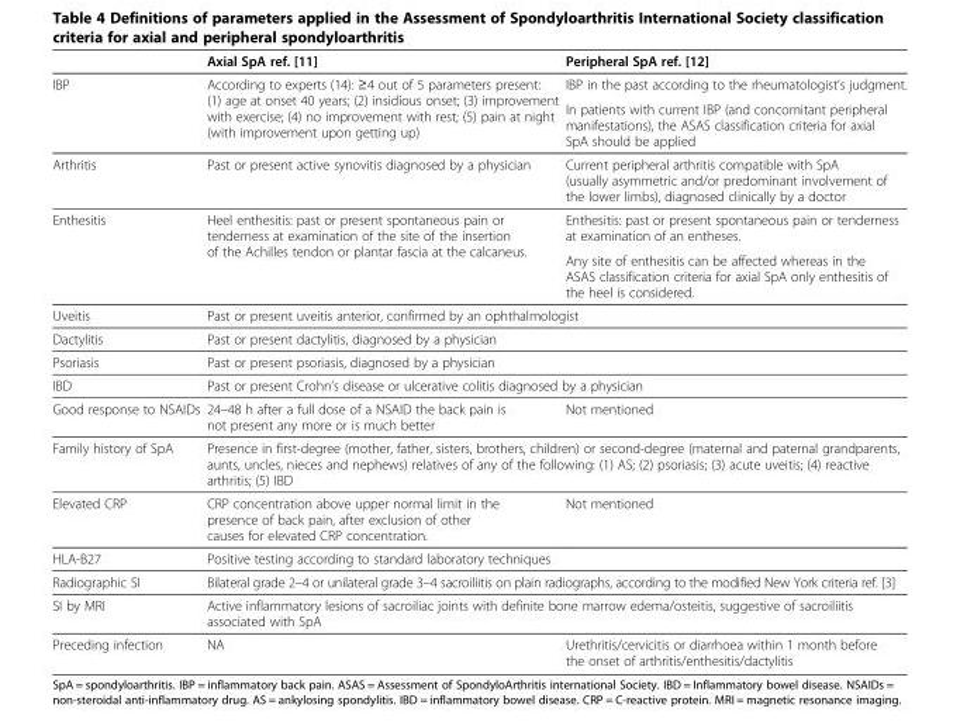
<table><thead><tr><td></td><td>Axial SpA ref. [11]</td><td>Peripheral SpA ref. [12]</td></tr></thead><tbody><tr><td rowspan="2">IBP</td><td rowspan="2">According to experts (14): ≥4 out of 5 parameters present: (1) age at onset 40 years; (2) insidious onset; (3) improvement with exercise; (4) no improvement with rest; (5) pain at night (with improvement upon getting up)</td><td>IBP in the past according to the rheumatologist’s judgment.</td></tr><tr><td>In patients with current IBP (and concomitant peripheral manifestations), the ASAS classification criteria for axial SpA should be applied</td></tr><tr><td>Arthritis</td><td>Past or present active synovitis diagnosed by a physician</td><td>Current peripheral arthritis compatible with SpA (usually asymmetric and/or predominant involvement of the lower limbs), diagnosed clinically by a doctor</td></tr><tr><td rowspan="2">Enthesitis</td><td rowspan="2">Heel enthesitis: past or present spontaneous pain or tenderness at examination of the site of the insertion of the Achilles tendon or plantar fascia at the calcaneus.</td><td>Enthesitis: past or present spontaneous pain or tenderness at examination of an entheses.</td></tr><tr><td>Any site of enthesitis can be affected whereas in the ASAS classification criteria for axial SpA only enthesitis of the heel is considered.</td></tr><tr><td>Uveitis</td><td colspan="2">Past or present uveitis anterior, confirmed by an ophthalmologist</td></tr><tr><td>Dactylitis</td><td colspan="2">Past or present dactylitis, diagnosed by a physician</td></tr><tr><td>Psoriasis</td><td colspan="2">Past or present psoriasis, diagnosed by a physician</td></tr><tr><td>IBD</td><td colspan="2">Past or present Crohn’s disease or ulcerative colitis diagnosed by a physician</td></tr><tr><td>Good response to NSAIDs</td><td>24–48 h after a full dose of a NSAID the back pain is not present any more or is much better</td><td>Not mentioned</td></tr><tr><td>Family history of SpA</td><td colspan="2">Presence in first-degree (mother, father, sisters, brothers, children) or second-degree (maternal and paternal grandparents, aunts, uncles, nieces and nephews) relatives of any of the following: (1) AS; (2) psoriasis; (3) acute uveitis; (4) reactive arthritis; (5) IBD</td></tr><tr><td>Elevated CRP</td><td>CRP concentration above upper normal limit in the presence of back pain, after exclusion of other causes for elevated CRP concentration.</td><td>Not mentioned</td></tr><tr><td>HLA-B27</td><td colspan="2">Positive testing according to standard laboratory techniques</td></tr><tr><td>Radiographic SI</td><td colspan="2">Bilateral grade 2–4 or unilateral grade 3–4 sacroiliitis on plain radiographs, according to the modified New York criteria ref. [3]</td></tr><tr><td>SI by MRI</td><td colspan="2">Active inflammatory lesions of sacroiliac joints with definite bone marrow edema/osteitis, suggestive of sacroiliitis associated with SpA</td></tr><tr><td>Preceding infection</td><td>NA</td><td>Urethritis/cervicitis or diarrhoea within 1 month before the onset of arthritis/enthesitis/dactylitis</td></tr></tbody></table>